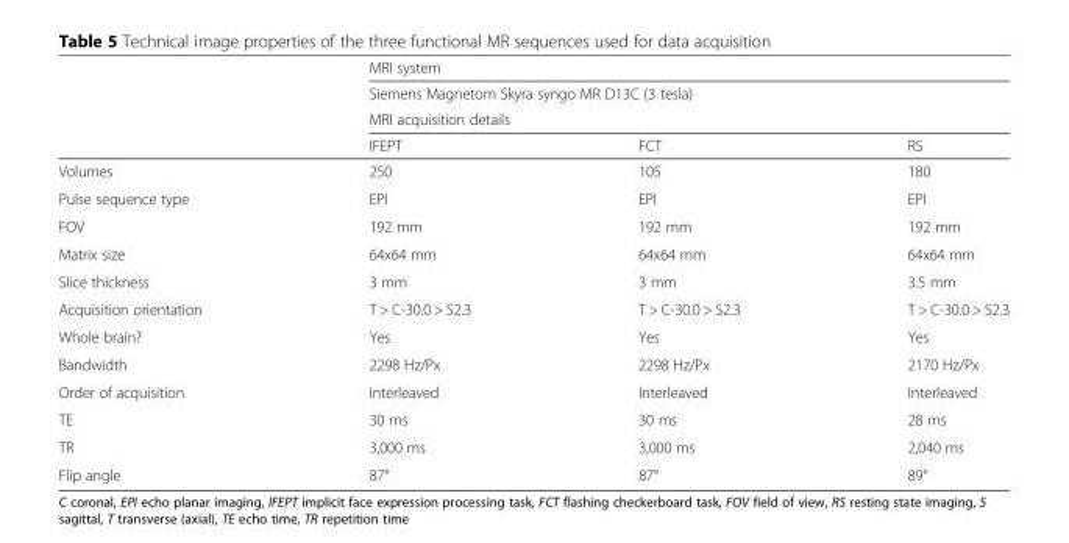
<table><thead><tr><td rowspan="4"></td><td rowspan="3" colspan="3">MRI system Siemens Magnetom Skyra syngo MR D13C (3 tesla) MRI acquisition details</td></tr><tr></tr><tr></tr><tr><td>IFEPT</td><td>FCT</td><td>RS</td></tr></thead><tbody><tr><td>Volumes</td><td>250</td><td>105</td><td>180</td></tr><tr><td>Pulse sequence type</td><td>EPI</td><td>EPI</td><td>EPI</td></tr><tr><td>FOV</td><td>192 mm</td><td>192 mm</td><td>192 mm</td></tr><tr><td>Matrix size</td><td>64x64 mm</td><td>64x64 mm</td><td>64x64 mm</td></tr><tr><td>Slice thickness</td><td>3 mm</td><td>3 mm</td><td>3.5 mm</td></tr><tr><td>Acquisition orientation</td><td>T &gt; C-30.0 &gt; S2.3</td><td>T &gt; C-30.0 &gt; S2.3</td><td>T &gt; C-30.0 &gt; S2.3</td></tr><tr><td>Whole brain?</td><td>Yes</td><td>Yes</td><td>Yes</td></tr><tr><td>Bandwidth</td><td>2298 Hz/Px</td><td>2298 Hz/Px</td><td>2170 Hz/Px</td></tr><tr><td>Order of acquisition</td><td>Interleaved</td><td>Interleaved</td><td>Interleaved</td></tr><tr><td>TE</td><td>30 ms</td><td>30 ms</td><td>28 ms</td></tr><tr><td>TR</td><td>3,000 ms</td><td>3,000 ms</td><td>2,040 ms</td></tr><tr><td>Flip angle</td><td>87°</td><td>87°</td><td>89°</td></tr></tbody></table>